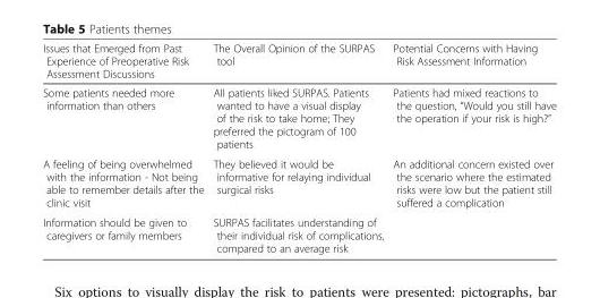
<table><thead><tr><td>Issues that Emerged from Past Experience of Preoperative Risk Assessment Discussions</td><td>The Overall Opinion of the SURPAS tool</td><td>Potential Concerns with Having Risk Assessment Information</td></tr></thead><tbody><tr><td>Some patients needed more information than others</td><td>All patients liked SURPAS. Patients wanted to have a visual display of the risk to take home; They preferred the pictogram of 100 patients</td><td>Patients had mixed reactions to the question, “Would you still have the operation if your risk is high?”</td></tr><tr><td>A feeling of being overwhelmed with the information - Not being able to remember details after the clinic visit</td><td>They believed it would be informative for relaying individual surgical risks</td><td>An additional concern existed over the scenario where the estimated risks were low but the patient still suffered a complication</td></tr><tr><td>Information should be given to caregivers or family members</td><td>SURPAS facilitates understanding of their individual risk of complications, compared to an average risk</td><td></td></tr></tbody></table>